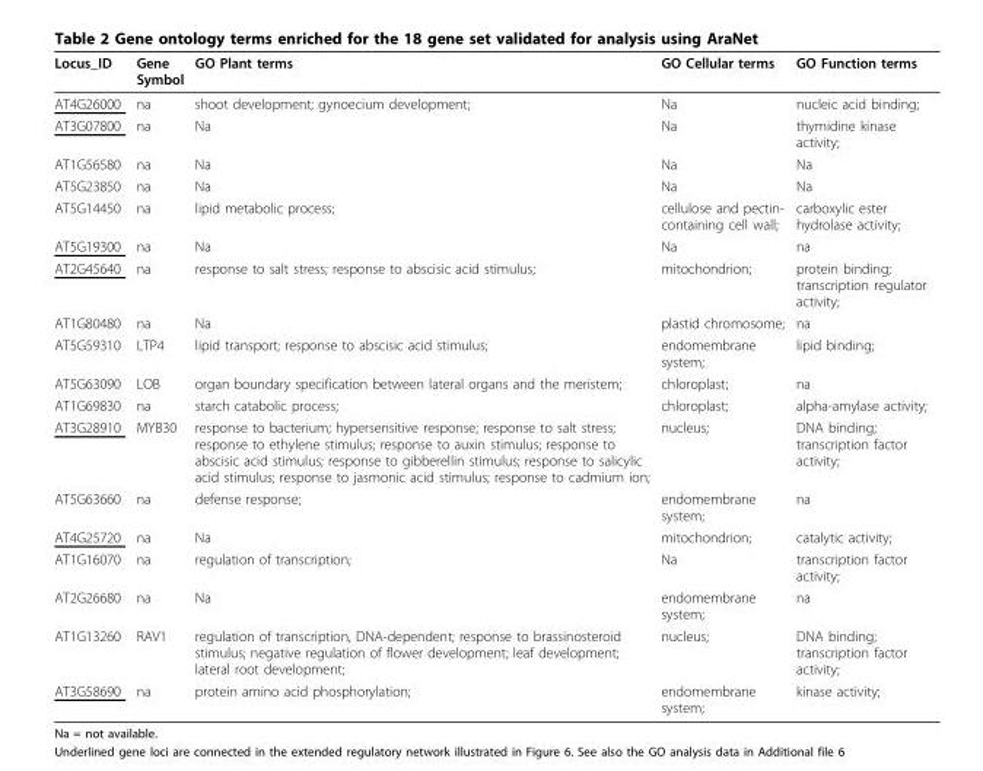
<table><thead><tr><td>Locus_ID</td><td>Gene Symbol</td><td>GO Plant terms</td><td>GO Cellular terms</td><td>GO Function terms</td></tr></thead><tbody><tr><td>AT4G26000</td><td>na</td><td>shoot development; gynoecium development;</td><td>Na</td><td>nucleic acid binding;</td></tr><tr><td>AT3G07800</td><td>na</td><td>Na</td><td>Na</td><td>thymidine kinase activity;</td></tr><tr><td>AT1G56580</td><td>na</td><td>Na</td><td>Na</td><td>Na</td></tr><tr><td>AT5G23850</td><td>na</td><td>Na</td><td>Na</td><td>Na</td></tr><tr><td>AT5G14450</td><td>na</td><td>lipid metabolic process;</td><td>cellulose and pectin- containing cell wall;</td><td>carboxylic ester hydrolase activity;</td></tr><tr><td>AT5G19300</td><td>na</td><td>Na</td><td>Na</td><td>na</td></tr><tr><td>AT2G45640</td><td>na</td><td>response to salt stress; response to abscisic acid stimulus;</td><td>mitochondrion;</td><td>protein binding; transcription regulator activity;</td></tr><tr><td>AT1G80480</td><td>na</td><td>Na</td><td>plastid chromosome;</td><td>na</td></tr><tr><td>AT5G59310</td><td>LTP4</td><td>lipid transport; response to abscisic acid stimulus;</td><td>endomembrane system;</td><td>lipid binding;</td></tr><tr><td>AT5G63090</td><td>LOB</td><td>organ boundary specification between lateral organs and the meristem;</td><td>chloroplast;</td><td>na</td></tr><tr><td>AT1G69830</td><td>na</td><td>starch catabolic process;</td><td>chloroplast;</td><td>alpha-amylase activity;</td></tr><tr><td>AT3G28910</td><td>MYB30</td><td>response to bacterium; hypersensitive response; response to salt stress; response to ethylene stimulus; response to auxin stimulus; response to abscisic acid stimulus; response to gibberellin stimulus; response to salicylic acid stimulus; response to jasmonic acid stimulus; response to cadmium ion;</td><td>nucleus;</td><td>DNA binding; transcription factor activity;</td></tr><tr><td>AT5G63660</td><td>na</td><td>defense response;</td><td>endomembrane system;</td><td>na</td></tr><tr><td>AT4G25720</td><td>na</td><td>Na</td><td>mitochondrion;</td><td>catalytic activity;</td></tr><tr><td>AT1G16070</td><td>na</td><td>regulation of transcription;</td><td>Na</td><td>transcription factor activity;</td></tr><tr><td>AT2G26680</td><td>na</td><td>Na</td><td>endomembrane system;</td><td>na</td></tr><tr><td>AT1G13260</td><td>RAV1</td><td>regulation of transcription, DNA-dependent; response to brassinosteroid stimulus; negative regulation of flower development; leaf development; lateral root development;</td><td>nucleus;</td><td>DNA binding; transcription factor activity;</td></tr><tr><td>AT3G58690</td><td>na</td><td>protein amino acid phosphorylation;</td><td>endomembrane system;</td><td>kinase activity;</td></tr></tbody></table>